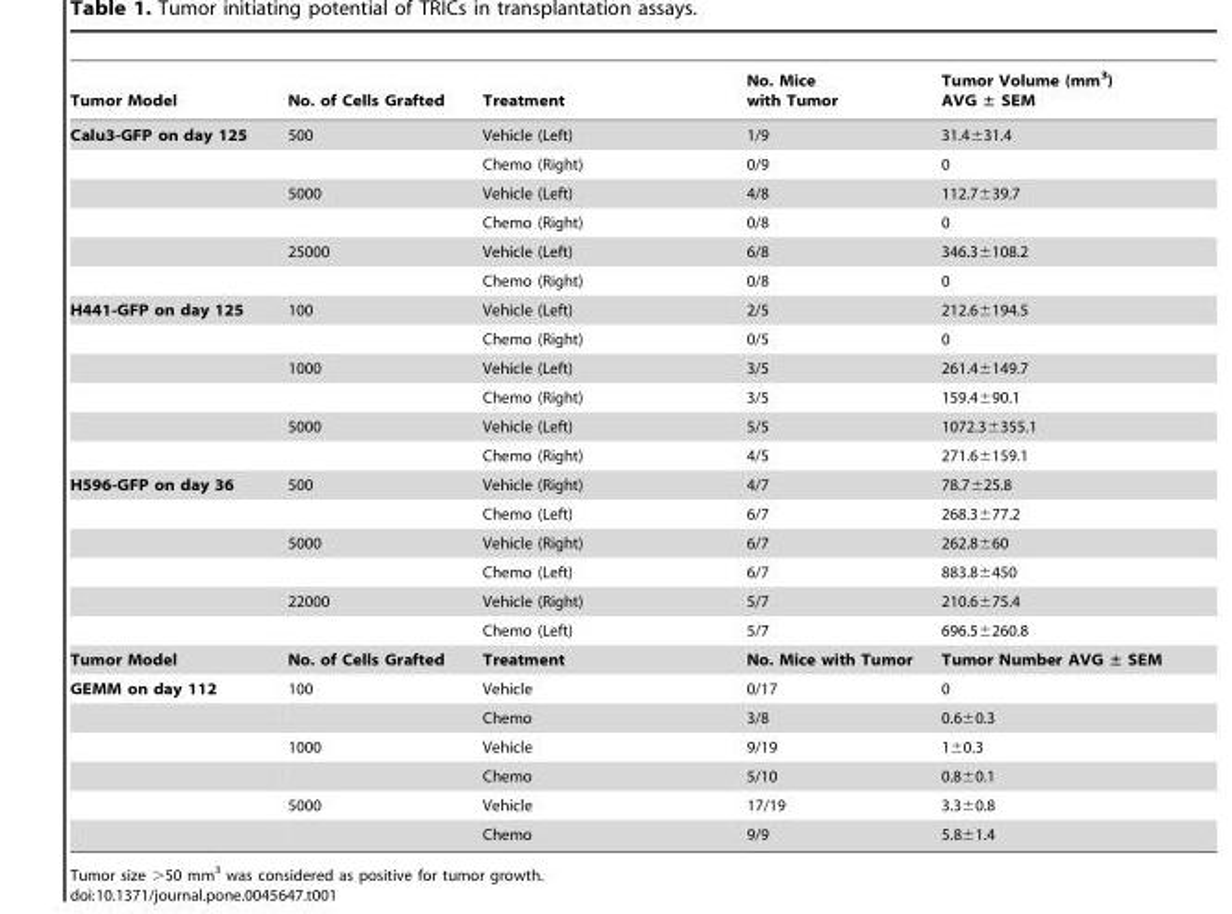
<table><thead><tr><td>Tumor Model</td><td>No. of Cells Grafted</td><td>Treatment</td><td>No. Mice with Tumor</td><td>Tumor Volume (mm<sup>3</sup>) AVG ± SEM</td></tr></thead><tbody><tr><td rowspan="6">Calu3-GFP on day 125</td><td>500</td><td>Vehicle (Left)</td><td>1/9</td><td>31.4±31.4</td></tr><tr><td></td><td>Chemo (Right)</td><td>0/9</td><td>0</td></tr><tr><td>5000</td><td>Vehicle (Left)</td><td>4/8</td><td>112.7±39.7</td></tr><tr><td></td><td>Chemo (Right)</td><td>0/8</td><td>0</td></tr><tr><td>25000</td><td>Vehicle (Left)</td><td>6/8</td><td>346.3±108.2</td></tr><tr><td></td><td>Chemo (Right)</td><td>0/8</td><td>0</td></tr><tr><td rowspan="6">H441-GFP on day 125</td><td>100</td><td>Vehicle (Left)</td><td>2/5</td><td>212.6±194.5</td></tr><tr><td></td><td>Chemo (Right)</td><td>0/5</td><td>0</td></tr><tr><td>1000</td><td>Vehicle (Left)</td><td>3/5</td><td>261.4±149.7</td></tr><tr><td></td><td>Chemo (Right)</td><td>3/5</td><td>159.4±90.1</td></tr><tr><td>5000</td><td>Vehicle (Left)</td><td>5/5</td><td>1072.3±355.1</td></tr><tr><td></td><td>Chemo (Right)</td><td>4/5</td><td>271.6±159.1</td></tr><tr><td rowspan="6">H596-GFP on day 36</td><td>500</td><td>Vehicle (Right)</td><td>4/7</td><td>78.7±25.8</td></tr><tr><td></td><td>Chemo (Left)</td><td>6/7</td><td>268.3±77.2</td></tr><tr><td>5000</td><td>Vehicle (Right)</td><td>6/7</td><td>262.8±60</td></tr><tr><td></td><td>Chemo (Left)</td><td>6/7</td><td>883.8±450</td></tr><tr><td>22000</td><td>Vehicle (Right)</td><td>5/7</td><td>210.6±75.4</td></tr><tr><td></td><td>Chemo (Left)</td><td>5/7</td><td>696.5±260.8</td></tr><tr><td>Tumor Model</td><td>No. of Cells Grafted</td><td>Treatment</td><td>No. Mice with Tumor</td><td>Tumor Number AVG ± SEM</td></tr><tr><td rowspan="6">GEMM on day 112</td><td>100</td><td>Vehicle</td><td>0/17</td><td>0</td></tr><tr><td></td><td>Chemo</td><td>3/8</td><td>0.6±0.3</td></tr><tr><td>1000</td><td>Vehicle</td><td>9/19</td><td>1±0.3</td></tr><tr><td></td><td>Chemo</td><td>5/10</td><td>0.8±0.1</td></tr><tr><td>5000</td><td>Vehicle</td><td>17/19</td><td>3.3±0.8</td></tr><tr><td></td><td>Chemo</td><td>9/9</td><td>5.8±1.4</td></tr></tbody></table>